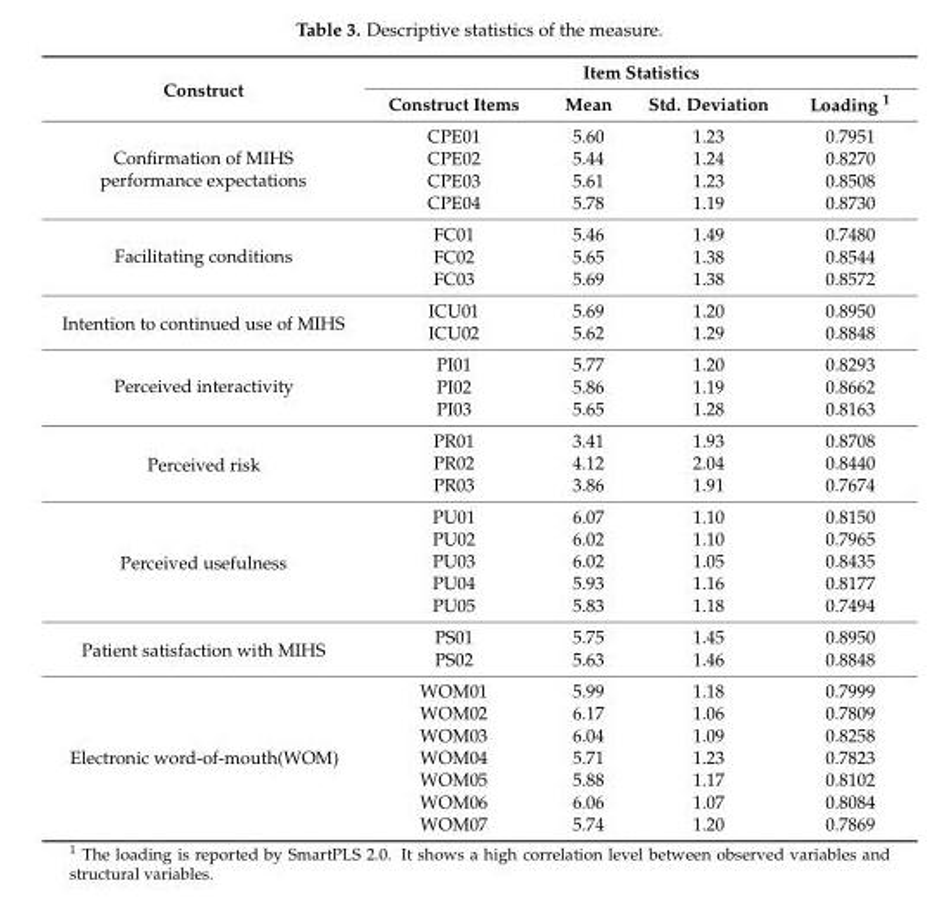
<table><thead><tr><td rowspan="2">Construct</td><td colspan="4">Item Statistics</td></tr><tr><td>Construct Items</td><td>Mean</td><td>Std. Deviation</td><td>Loading <sup>1</sup></td></tr></thead><tbody><tr><td rowspan="4">Confirmation of MIHS performance expectations</td><td>CPE01</td><td>5.60</td><td>1.23</td><td>0.7951</td></tr><tr><td>CPE02</td><td>5.44</td><td>1.24</td><td>0.8270</td></tr><tr><td>CPE03</td><td>5.61</td><td>1.23</td><td>0.8508</td></tr><tr><td>CPE04</td><td>5.78</td><td>1.19</td><td>0.8730</td></tr><tr><td rowspan="3">Facilitating conditions</td><td>FC01</td><td>5.46</td><td>1.49</td><td>0.7480</td></tr><tr><td>FC02</td><td>5.65</td><td>1.38</td><td>0.8544</td></tr><tr><td>FC03</td><td>5.69</td><td>1.38</td><td>0.8572</td></tr><tr><td rowspan="2">Intention to continued use of MIHS</td><td>ICU01</td><td>5.69</td><td>1.20</td><td>0.8950</td></tr><tr><td>ICU02</td><td>5.62</td><td>1.29</td><td>0.8848</td></tr><tr><td rowspan="3">Perceived interactivity</td><td>PI01</td><td>5.77</td><td>1.20</td><td>0.8293</td></tr><tr><td>PI02</td><td>5.86</td><td>1.19</td><td>0.8662</td></tr><tr><td>PI03</td><td>5.65</td><td>1.28</td><td>0.8163</td></tr><tr><td rowspan="3">Perceived risk</td><td>PR01</td><td>3.41</td><td>1.93</td><td>0.8708</td></tr><tr><td>PR02</td><td>4.12</td><td>2.04</td><td>0.8440</td></tr><tr><td>PR03</td><td>3.86</td><td>1.91</td><td>0.7674</td></tr><tr><td rowspan="5">Perceived usefulness</td><td>PU01</td><td>6.07</td><td>1.10</td><td>0.8150</td></tr><tr><td>PU02</td><td>6.02</td><td>1.10</td><td>0.7965</td></tr><tr><td>PU03</td><td>6.02</td><td>1.05</td><td>0.8435</td></tr><tr><td>PU04</td><td>5.93</td><td>1.16</td><td>0.8177</td></tr><tr><td>PU05</td><td>5.83</td><td>1.18</td><td>0.7494</td></tr><tr><td rowspan="2">Patient satisfaction with MIHS</td><td>PS01</td><td>5.75</td><td>1.45</td><td>0.8950</td></tr><tr><td>PS02</td><td>5.63</td><td>1.46</td><td>0.8848</td></tr><tr><td rowspan="7">Electronic word-of-mouth(WOM)</td><td>WOM01</td><td>5.99</td><td>1.18</td><td>0.7999</td></tr><tr><td>WOM02</td><td>6.17</td><td>1.06</td><td>0.7809</td></tr><tr><td>WOM03</td><td>6.04</td><td>1.09</td><td>0.8258</td></tr><tr><td>WOM04</td><td>5.71</td><td>1.23</td><td>0.7823</td></tr><tr><td>WOM05</td><td>5.88</td><td>1.17</td><td>0.8102</td></tr><tr><td>WOM06</td><td>6.06</td><td>1.07</td><td>0.8084</td></tr><tr><td>WOM07</td><td>5.74</td><td>1.20</td><td>0.7869</td></tr></tbody></table>